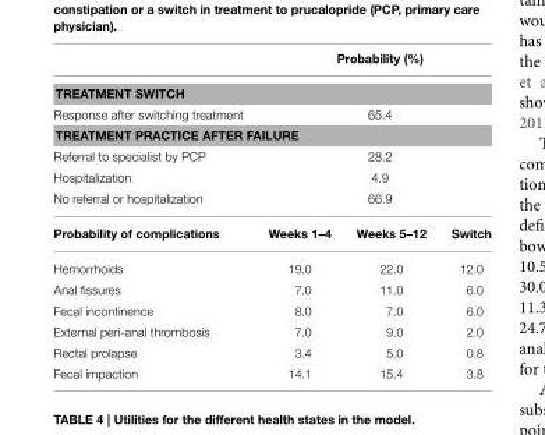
<table><thead><tr><td></td><td colspan="3">Probability (%)</td></tr></thead><tbody><tr><td colspan="4">TREATMENT SWITCH</td></tr><tr><td>Response after switching treatment</td><td colspan="3">65.4</td></tr><tr><td colspan="4">TREATMENT PRACTICE AFTER FAILURE</td></tr><tr><td>Referral to specialist by PCP</td><td colspan="3">28.2</td></tr><tr><td>Hospitalization</td><td colspan="3">4.9</td></tr><tr><td>No referral or hospitalization</td><td colspan="3">66.9</td></tr><tr><td>Probability of complications</td><td>Weeks 1–4</td><td>Weeks 5–12</td><td>Switch</td></tr><tr><td>Hemorrhoids</td><td>19.0</td><td>22.0</td><td>12.0</td></tr><tr><td>Anal fissures</td><td>7.0</td><td>11.0</td><td>6.0</td></tr><tr><td>Fecal incontinence</td><td>8.0</td><td>7.0</td><td>6.0</td></tr><tr><td>External peri-anal thrombosis</td><td>7.0</td><td>9.0</td><td>2.0</td></tr><tr><td>Rectal prolapse</td><td>3.4</td><td>5.0</td><td>0.8</td></tr><tr><td>Fecal impaction</td><td>14.1</td><td>15.4</td><td>3.8</td></tr></tbody></table>